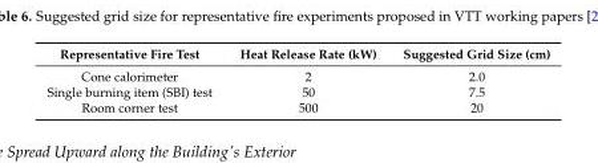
<table><thead><tr><td>Representative Fire Test</td><td>Heat Release Rate (kW)</td><td>Suggested Grid Size (cm)</td></tr></thead><tbody><tr><td>Cone calorimeter</td><td>2</td><td>2.0</td></tr><tr><td>Single burning item (SBI) test</td><td>50</td><td>7.5</td></tr><tr><td>Room corner test</td><td>500</td><td>20</td></tr></tbody></table>